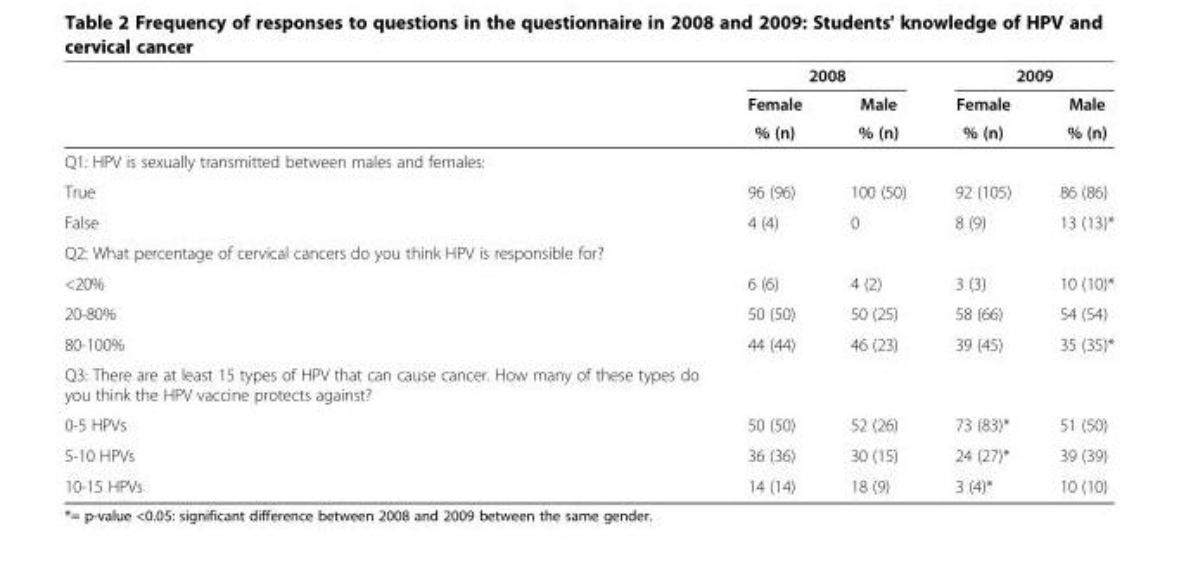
<table><thead><tr><td rowspan="3"></td><td colspan="2">2008</td><td colspan="2">2009</td></tr><tr><td rowspan="2">Female % (n)</td><td rowspan="2">Male % (n)</td><td rowspan="2">Female % (n)</td><td rowspan="2">Male % (n)</td></tr><tr></tr></thead><tbody><tr><td colspan="5">Q1: HPV is sexually transmitted between males and females:</td></tr><tr><td>True</td><td>96 (96)</td><td>100 (50)</td><td>92 (105)</td><td>86 (86)</td></tr><tr><td>False</td><td>4 (4)</td><td>0</td><td>8 (9)</td><td>13 (13)*</td></tr><tr><td colspan="5">Q2: What percentage of cervical cancers do you think HPV is responsible for?</td></tr><tr><td>&lt;20%</td><td>6 (6)</td><td>4 (2)</td><td>3 (3)</td><td>10 (10)*</td></tr><tr><td>20-80%</td><td>50 (50)</td><td>50 (25)</td><td>58 (66)</td><td>54 (54)</td></tr><tr><td>80-100%</td><td>44 (44)</td><td>46 (23)</td><td>39 (45)</td><td>35 (35)*</td></tr><tr><td colspan="5">Q3: There are at least 15 types of HPV that can cause cancer. How many of these types do you think the HPV vaccine protects against?</td></tr><tr><td>0-5 HPVs</td><td>50 (50)</td><td>52 (26)</td><td>73 (83)*</td><td>51 (50)</td></tr><tr><td>5-10 HPVs</td><td>36 (36)</td><td>30 (15)</td><td>24 (27)*</td><td>39 (39)</td></tr><tr><td>10-15 HPVs</td><td>14 (14)</td><td>18 (9)</td><td>3 (4)*</td><td>10 (10)</td></tr></tbody></table>